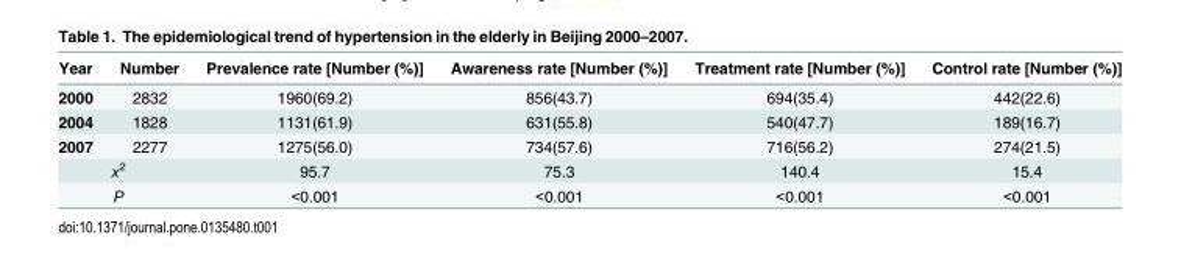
<table><thead><tr><td>Year</td><td>Number</td><td>Prevalence rate [Number (%)]</td><td>Awareness rate [Number (%)]</td><td>Treatment rate [Number (%)]</td><td>Control rate [Number (%)]</td></tr></thead><tbody><tr><td>2000</td><td>2832</td><td>1960(69.2)</td><td>856(43.7)</td><td>694(35.4)</td><td>442(22.6)</td></tr><tr><td>2004</td><td>1828</td><td>1131(61.9)</td><td>631(55.8)</td><td>540(47.7)</td><td>189(16.7)</td></tr><tr><td>2007</td><td>2277</td><td>1275(56.0)</td><td>734(57.6)</td><td>716(56.2)</td><td>274(21.5)</td></tr><tr><td colspan="2">x<sup>2</sup></td><td>95.7</td><td>75.3</td><td>140.4</td><td>15.4</td></tr><tr><td colspan="2">P</td><td>&lt;0.001</td><td>&lt;0.001</td><td>&lt;0.001</td><td>&lt;0.001</td></tr></tbody></table>